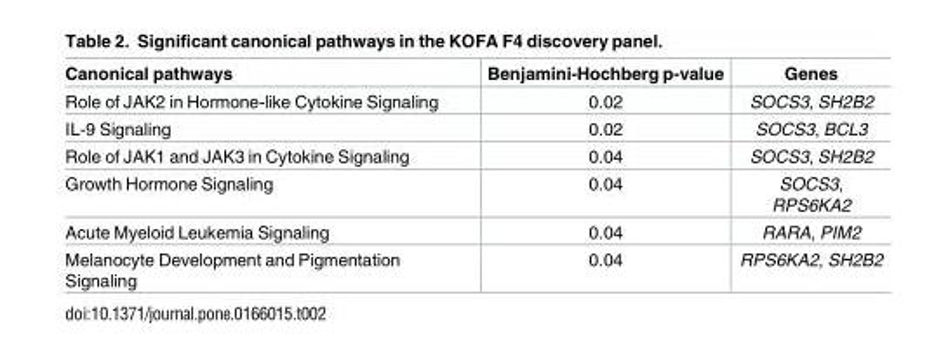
<table><thead><tr><td>Canonical pathways</td><td>Benjamini-Hochberg p-value</td><td>Genes</td></tr></thead><tbody><tr><td>Role of JAK2 in Hormone-like Cytokine Signaling</td><td>0.02</td><td>SOCS3, SH2B2</td></tr><tr><td>IL-9 Signaling</td><td>0.02</td><td>SOCS3, BCL3</td></tr><tr><td>Role of JAK1 and JAK3 in Cytokine Signaling</td><td>0.04</td><td>SOCS3, SH2B2</td></tr><tr><td>Growth Hormone Signaling</td><td>0.04</td><td>SOCS3, RPS6KA2</td></tr><tr><td>Acute Myeloid Leukemia Signaling</td><td>0.04</td><td>RARA, PIM2</td></tr><tr><td>Melanocyte Development and Pigmentation Signaling</td><td>0.04</td><td>RPS6KA2, SH2B2</td></tr></tbody></table>